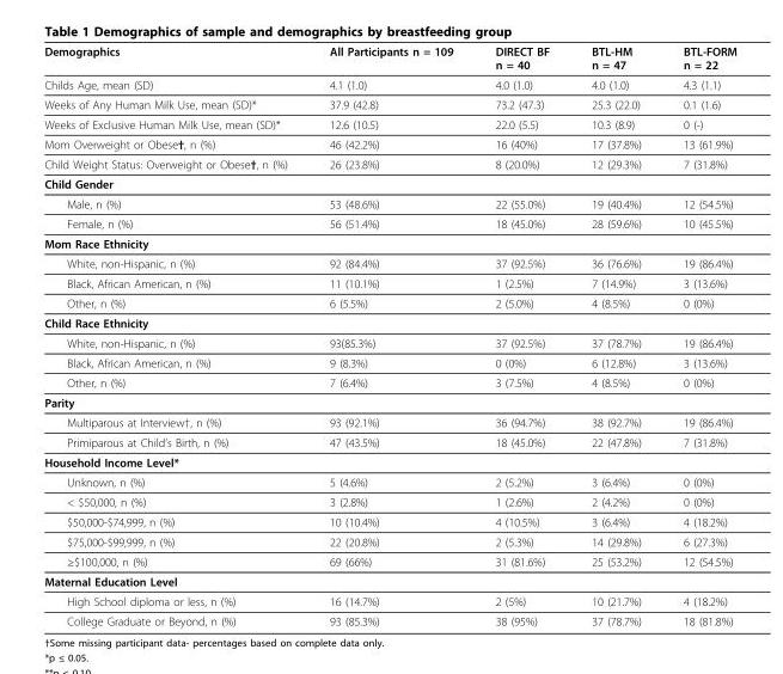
<table><thead><tr><td>Demographics</td><td>All Participants n = 109</td><td>DIRECT BF n = 40</td><td>BTL-HM n = 47</td><td>BTL-FORM n = 22</td></tr></thead><tbody><tr><td>Childs Age, mean (SD)</td><td>4.1 (1.0)</td><td>4.0 (1.0)</td><td>4.0 (1.0)</td><td>4.3 (1.1)</td></tr><tr><td>Weeks of Any Human Milk Use, mean (SD)*</td><td>37.9 (42.8)</td><td>73.2 (47.3)</td><td>25.3 (22.0)</td><td>0.1 (1.6)</td></tr><tr><td>Weeks of Exclusive Human Milk Use, mean (SD)*</td><td>12.6 (10.5)</td><td>22.0 (5.5)</td><td>10.3 (8.9)</td><td>0 (-)</td></tr><tr><td>Mom Overweight or Obese†, n (%)</td><td>46 (42.2%)</td><td>16 (40%)</td><td>17 (37.8%)</td><td>13 (61.9%)</td></tr><tr><td>Child Weight Status: Overweight or Obese†, n (%)</td><td>26 (23.8%)</td><td>8 (20.0%)</td><td>12 (29.3%)</td><td>7 (31.8%)</td></tr><tr><td colspan="5">Child Gender</td></tr><tr><td>Male, n (%)</td><td>53 (48.6%)</td><td>22 (55.0%)</td><td>19 (40.4%)</td><td>12 (54.5%)</td></tr><tr><td>Female, n (%)</td><td>56 (51.4%)</td><td>18 (45.0%)</td><td>28 (59.6%)</td><td>10 (45.5%)</td></tr><tr><td colspan="5">Mom Race Ethnicity</td></tr><tr><td>White, non-Hispanic, n (%)</td><td>92 (84.4%)</td><td>37 (92.5%)</td><td>36 (76.6%)</td><td>19 (86.4%)</td></tr><tr><td>Black, African American, n (%)</td><td>11 (10.1%)</td><td>1 (2.5%)</td><td>7 (14.9%)</td><td>3 (13.6%)</td></tr><tr><td>Other, n (%)</td><td>6 (5.5%)</td><td>2 (5.0%)</td><td>4 (8.5%)</td><td>0 (0%)</td></tr><tr><td colspan="5">Child Race Ethnicity</td></tr><tr><td>White, non-Hispanic, n (%)</td><td>93(85.3%)</td><td>37 (92.5%)</td><td>37 (78.7%)</td><td>19 (86.4%)</td></tr><tr><td>Black, African American, n (%)</td><td>9 (8.3%)</td><td>0 (0%)</td><td>6 (12.8%)</td><td>3 (13.6%)</td></tr><tr><td>Other, n (%)</td><td>7 (6.4%)</td><td>3 (7.5%)</td><td>4 (8.5%)</td><td>0 (0%)</td></tr><tr><td colspan="5">Parity</td></tr><tr><td>Multiparous at Interview†, n (%)</td><td>93 (92.1%)</td><td>36 (94.7%)</td><td>38 (92.7%)</td><td>19 (86.4%)</td></tr><tr><td>Primiparous at Child’s Birth, n (%)</td><td>47 (43.5%)</td><td>18 (45.0%)</td><td>22 (47.8%)</td><td>7 (31.8%)</td></tr><tr><td colspan="5">Household Income Level*</td></tr><tr><td>Unknown, n (%)</td><td>5 (4.6%)</td><td>2 (5.2%)</td><td>3 (6.4%)</td><td>0 (0%)</td></tr><tr><td>&lt; $50,000, n (%)</td><td>3 (2.8%)</td><td>1 (2.6%)</td><td>2 (4.2%)</td><td>0 (0%)</td></tr><tr><td>$50,000-$74,999, n (%)</td><td>10 (10.4%)</td><td>4 (10.5%)</td><td>3 (6.4%)</td><td>4 (18.2%)</td></tr><tr><td>$75,000-$99,999, n (%)</td><td>22 (20.8%)</td><td>2 (5.3%)</td><td>14 (29.8%)</td><td>6 (27.3%)</td></tr><tr><td>≥$100,000, n (%)</td><td>69 (66%)</td><td>31 (81.6%)</td><td>25 (53.2%)</td><td>12 (54.5%)</td></tr><tr><td colspan="5">Maternal Education Level</td></tr><tr><td>High School diploma or less, n (%)</td><td>16 (14.7%)</td><td>2 (5%)</td><td>10 (21.7%)</td><td>4 (18.2%)</td></tr><tr><td>College Graduate or Beyond, n (%)</td><td>93 (85.3%)</td><td>38 (95%)</td><td>37 (78.7%)</td><td>18 (81.8%)</td></tr></tbody></table>